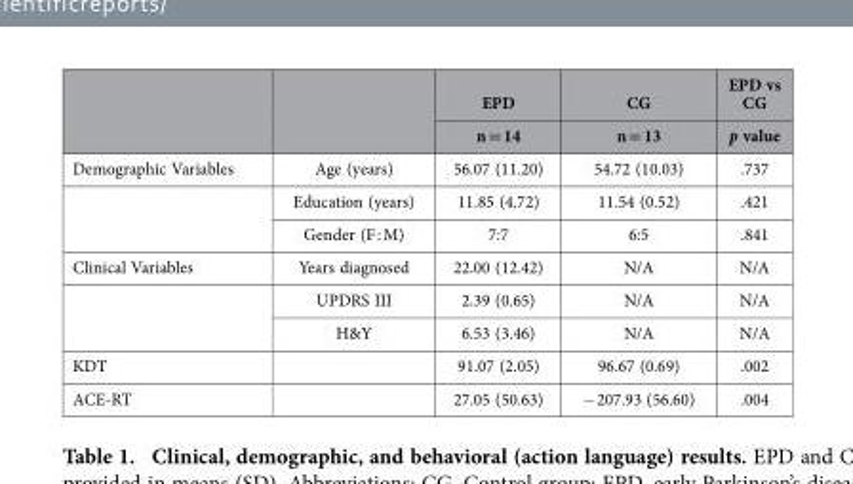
<table><thead><tr><td rowspan="2"></td><td rowspan="2"></td><td rowspan="2">EPD n = 14</td><td rowspan="2">CG n = 13</td><td rowspan="2">EPD vs CG p value</td></tr><tr></tr></thead><tbody><tr><td rowspan="3">Demographic Variables</td><td>Age (years)</td><td>56.07 (11.20)</td><td>54.72 (10.03)</td><td>.737</td></tr><tr><td>Education (years)</td><td>11.85 (4.72)</td><td>11.54 (0.52)</td><td>.421</td></tr><tr><td>Gender (F : M)</td><td>7:7</td><td>6:5</td><td>.841</td></tr><tr><td rowspan="3">Clinical Variables</td><td>Years diagnosed</td><td>22.00 (12.42)</td><td>N/A</td><td>N/A</td></tr><tr><td>UPDRS III</td><td>2.39 (0.65)</td><td>N/A</td><td>N/A</td></tr><tr><td>H&amp;Y</td><td>6.53 (3.46)</td><td>N/A</td><td>N/A</td></tr><tr><td>KDT</td><td></td><td>91.07 (2.05)</td><td>96.67 (0.69)</td><td>.002</td></tr><tr><td>ACE-RT</td><td></td><td>27.05 (50.63)</td><td>− 207.93 (56.60)</td><td>.004</td></tr></tbody></table>